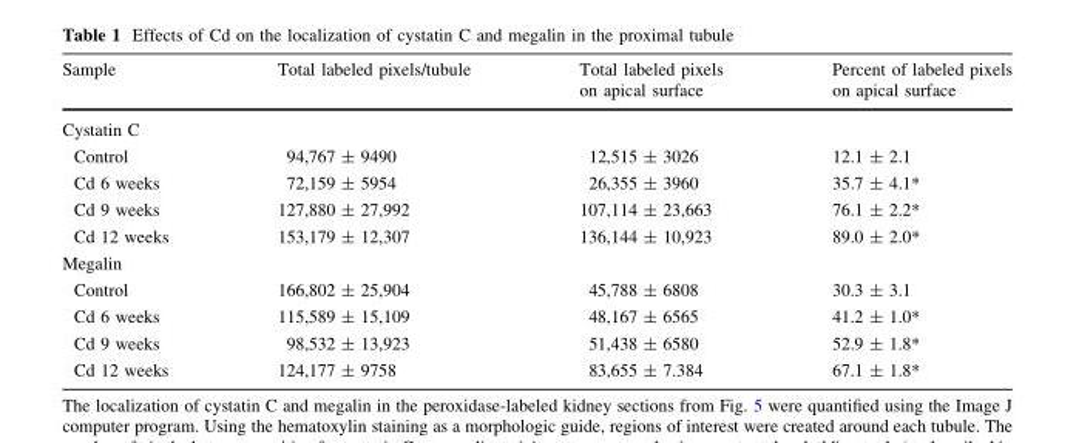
<table><thead><tr><td>Sample</td><td>Total labeled pixels/tubule</td><td>Total labeled pixels on apical surface</td><td>Percent of labeled pixels on apical surface</td></tr></thead><tbody><tr><td colspan="4">Cystatin C</td></tr><tr><td>Control</td><td>94,767 ± 9490</td><td>12,515 ± 3026</td><td>12.1 ± 2.1</td></tr><tr><td>Cd 6 weeks</td><td>72,159 ± 5954</td><td>26,355 ± 3960</td><td>35.7 ± 4.1*</td></tr><tr><td>Cd 9 weeks</td><td>127,880 ± 27,992</td><td>107,114 ± 23,663</td><td>76.1 ± 2.2*</td></tr><tr><td>Cd 12 weeks</td><td>153,179 ± 12,307</td><td>136,144 ± 10,923</td><td>89.0 ± 2.0*</td></tr><tr><td colspan="4">Megalin</td></tr><tr><td>Control</td><td>166,802 ± 25,904</td><td>45,788 ± 6808</td><td>30.3 ± 3.1</td></tr><tr><td>Cd 6 weeks</td><td>115,589 ± 15,109</td><td>48,167 ± 6565</td><td>41.2 ± 1.0*</td></tr><tr><td>Cd 9 weeks</td><td>98,532 ± 13,923</td><td>51,438 ± 6580</td><td>52.9 ± 1.8*</td></tr><tr><td>Cd 12 weeks</td><td>124,177 ± 9758</td><td>83,655 ± 7.384</td><td>67.1 ± 1.8*</td></tr></tbody></table>